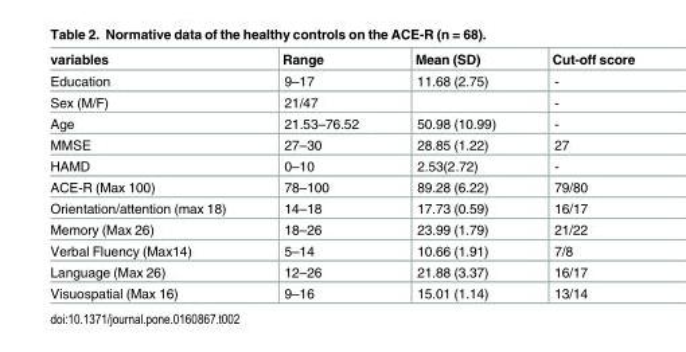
<table><thead><tr><td>variables</td><td>Range</td><td>Mean (SD)</td><td>Cut-off score</td></tr></thead><tbody><tr><td>Education</td><td>9–17</td><td>11.68 (2.75)</td><td>-</td></tr><tr><td>Sex (M/F)</td><td>21/47</td><td></td><td>-</td></tr><tr><td>Age</td><td>21.53–76.52</td><td>50.98 (10.99)</td><td>-</td></tr><tr><td>MMSE</td><td>27–30</td><td>28.85 (1.22)</td><td>27</td></tr><tr><td>HAMD</td><td>0–10</td><td>2.53(2.72)</td><td>-</td></tr><tr><td>ACE-R (Max 100)</td><td>78–100</td><td>89.28 (6.22)</td><td>79/80</td></tr><tr><td>Orientation/attention (max 18)</td><td>14–18</td><td>17.73 (0.59)</td><td>16/17</td></tr><tr><td>Memory (Max 26)</td><td>18–26</td><td>23.99 (1.79)</td><td>21/22</td></tr><tr><td>Verbal Fluency (Max14)</td><td>5–14</td><td>10.66 (1.91)</td><td>7/8</td></tr><tr><td>Language (Max 26)</td><td>12–26</td><td>21.88 (3.37)</td><td>16/17</td></tr><tr><td>Visuospatial (Max 16)</td><td>9–16</td><td>15.01 (1.14)</td><td>13/14</td></tr></tbody></table>